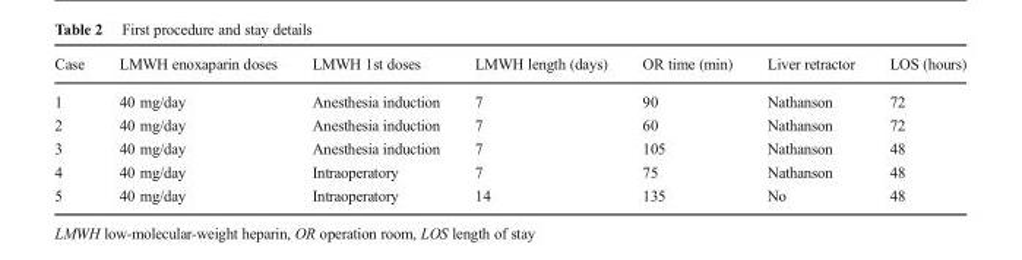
<table><thead><tr><td>Case</td><td>LMWH enoxaparin doses</td><td>LMWH 1st doses</td><td>LMWH length (days)</td><td>OR time (min)</td><td>Liver retractor</td><td>LOS (hours)</td></tr></thead><tbody><tr><td>1</td><td>40 mg/day</td><td>Anesthesia induction</td><td>7</td><td>90</td><td>Nathanson</td><td>72</td></tr><tr><td>2</td><td>40 mg/day</td><td>Anesthesia induction</td><td>7</td><td>60</td><td>Nathanson</td><td>72</td></tr><tr><td>3</td><td>40 mg/day</td><td>Anesthesia induction</td><td>7</td><td>105</td><td>Nathanson</td><td>48</td></tr><tr><td>4</td><td>40 mg/day</td><td>Intraoperatory</td><td>7</td><td>75</td><td>Nathanson</td><td>48</td></tr><tr><td>5</td><td>40 mg/day</td><td>Intraoperatory</td><td>14</td><td>135</td><td>No</td><td>48</td></tr></tbody></table>